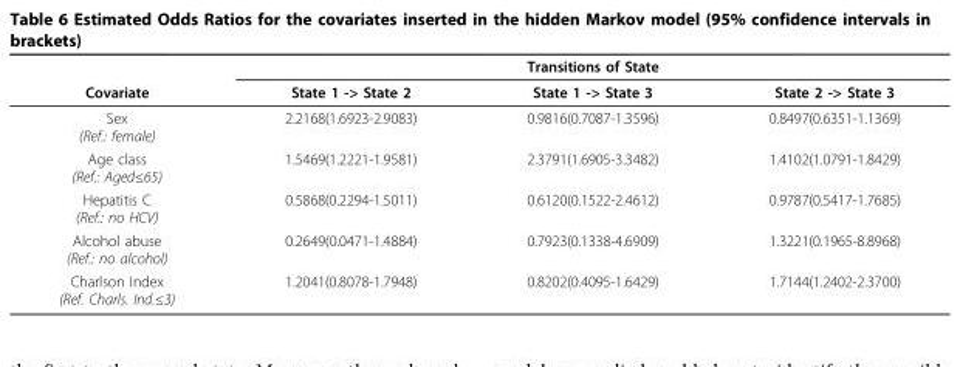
<table><thead><tr><td rowspan="2">Covariate</td><td colspan="3">Transitions of State</td></tr><tr><td>State 1 -&gt; State 2</td><td>State 1 -&gt; State 3</td><td>State 2 -&gt; State 3</td></tr></thead><tbody><tr><td>Sex (Ref.: female)</td><td>2.2168(1.6923-2.9083)</td><td>0.9816(0.7087-1.3596)</td><td>0.8497(0.6351-1.1369)</td></tr><tr><td>Age class (Ref.: Aged≤65)</td><td>1.5469(1.2221-1.9581)</td><td>2.3791(1.6905-3.3482)</td><td>1.4102(1.0791-1.8429)</td></tr><tr><td>Hepatitis C (Ref.: no HCV)</td><td>0.5868(0.2294-1.5011)</td><td>0.6120(0.1522-2.4612)</td><td>0.9787(0.5417-1.7685)</td></tr><tr><td>Alcohol abuse (Ref.: no alcohol)</td><td>0.2649(0.0471-1.4884)</td><td>0.7923(0.1338-4.6909)</td><td>1.3221(0.1965-8.8968)</td></tr><tr><td>Charlson Index (Ref. Charls. Ind.≤3)</td><td>1.2041(0.8078-1.7948)</td><td>0.8202(0.4095-1.6429)</td><td>1.7144(1.2402-2.3700)</td></tr></tbody></table>